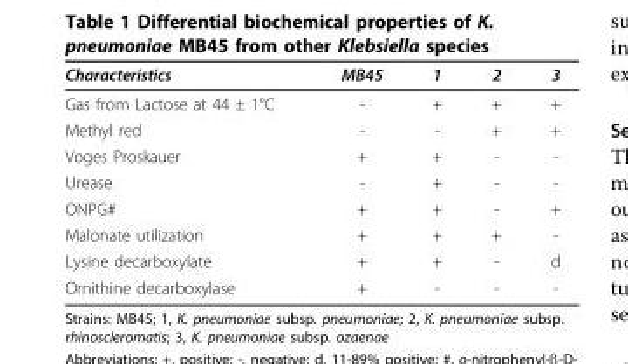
<table><thead><tr><td>Characteristics</td><td>MB45</td><td>1</td><td>2</td><td>3</td></tr></thead><tbody><tr><td>Gas from Lactose at 44 ± 1°C</td><td>-</td><td>+</td><td>+</td><td>+</td></tr><tr><td>Methyl red</td><td>-</td><td>-</td><td>+</td><td>+</td></tr><tr><td>Voges Proskauer</td><td>+</td><td>+</td><td>-</td><td>-</td></tr><tr><td>Urease</td><td>-</td><td>+</td><td>-</td><td>-</td></tr><tr><td>ONPG#</td><td>+</td><td>+</td><td>-</td><td>+</td></tr><tr><td>Malonate utilization</td><td>+</td><td>+</td><td>+</td><td>-</td></tr><tr><td>Lysine decarboxylate</td><td>+</td><td>+</td><td>-</td><td>d</td></tr><tr><td>Ornithine decarboxylase</td><td>+</td><td>-</td><td>-</td><td>-</td></tr></tbody></table>